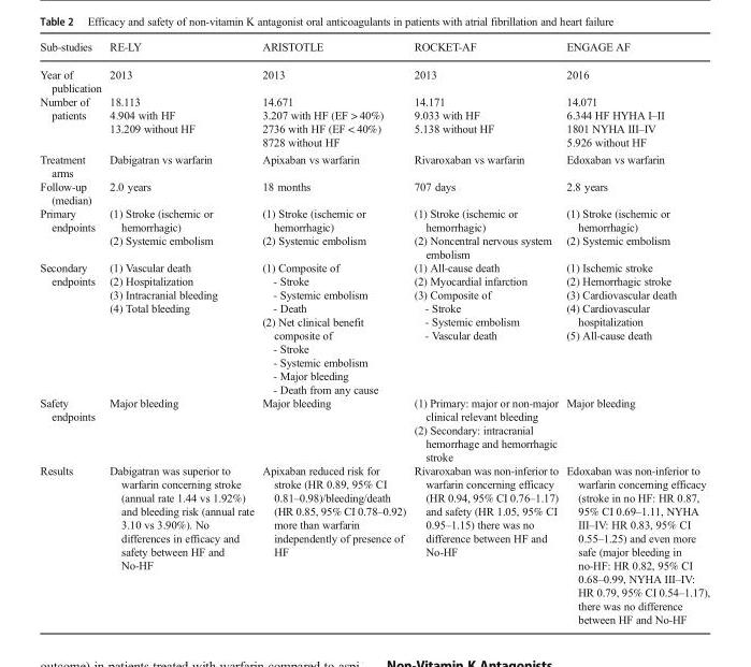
<table><thead><tr><td>Sub-studies</td><td>RE-LY</td><td>ARISTOTLE</td><td>ROCKET-AF</td><td>ENGAGE AF</td></tr></thead><tbody><tr><td>Year of publication</td><td>2013</td><td>2013</td><td>2013</td><td>2016</td></tr><tr><td>Number of patients</td><td>18.113 4.904 with HF 13.209 without HF</td><td>14.671 3.207 with HF (EF &gt; 40%) 2736 with HF (EF &lt; 40%) 8728 without HF</td><td>14.171 9.033 with HF 5.138 without HF</td><td>14.071 6.344 HF HYHA I–II 1801 NYHA III–IV 5.926 without HF</td></tr><tr><td>Treatment arms</td><td>Dabigatran vs warfarin</td><td>Apixaban vs warfarin</td><td>Rivaroxaban vs warfarin</td><td>Edoxaban vs warfarin</td></tr><tr><td>Follow-up (median)</td><td>2.0 years</td><td>18 months</td><td>707 days</td><td>2.8 years</td></tr><tr><td>Primary endpoints</td><td>(1) Stroke (ischemic or hemorrhagic) (2) Systemic embolism</td><td>(1) Stroke (ischemic or hemorrhagic) (2) Systemic embolism</td><td>(1) Stroke (ischemic or hemorrhagic) (2) Noncentral nervous system embolism</td><td>(1) Stroke (ischemic or hemorrhagic) (2) Systemic embolism</td></tr><tr><td>Secondary endpoints</td><td>(1) Vascular death (2) Hospitalization (3) Intracranial bleeding (4) Total bleeding</td><td>(1) Composite of - Stroke - Systemic embolism - Death (2) Net clinical benefit composite of - Stroke - Systemic embolism - Major bleeding - Death from any cause</td><td>(1) All-cause death (2) Myocardial infarction (3) Composite of - Stroke - Systemic embolism - Vascular death</td><td>(1) Ischemic stroke (2) Hemorrhagic stroke (3) Cardiovascular death (4) Cardiovascular hospitalization (5) All-cause death</td></tr><tr><td>Safety endpoints</td><td>Major bleeding</td><td>Major bleeding</td><td>(1) Primary: major or non-major clinical relevant bleeding (2) Secondary: intracranial hemorrhage and hemorrhagic stroke</td><td>Major bleeding</td></tr><tr><td>Results</td><td>Dabigatran was superior to warfarin concerning stroke (annual rate 1.44 vs 1.92%) and bleeding risk (annual rate 3.10 vs 3.90%). No differences in efficacy and safety between HF and No-HF</td><td>Apixaban reduced risk for stroke (HR 0.89, 95% CI 0.81–0.98)/bleeding/death (HR 0.85, 95% CI 0.78–0.92) more than warfarin independently of presence of HF</td><td>Rivaroxaban was non-inferior to warfarin concerning efficacy (HR 0.94, 95% CI 0.76–1.17) and safety (HR 1.05, 95% CI 0.95–1.15) there was no difference between HF and No-HF</td><td>Edoxaban was non-inferior to warfarin concerning efficacy (stroke in no HF: HR 0.87, 95% CI 0.69–1.11, NYHA III–IV: HR 0.83, 95% CI 0.55–1.25) and even more safe (major bleeding in no-HF: HR 0.82, 95% CI 0.68–0.99, NYHA III–IV: HR 0.79, 95% CI 0.54–1.17), there was no difference between HF and No-HF</td></tr></tbody></table>